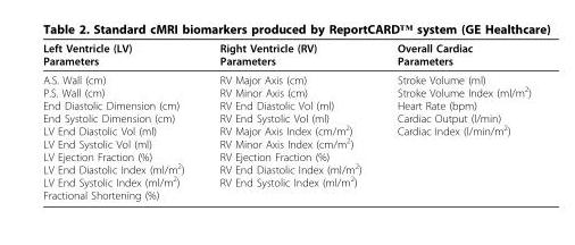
<table><thead><tr><td>Left Ventricle (LV) Parameters</td><td>Right Ventricle (RV) Parameters</td><td>Overall Cardiac Parameters</td></tr></thead><tbody><tr><td>A.S. Wall (cm) P.S. Wall (cm) End Diastolic Dimension (cm) End Systolic Dimension (cm) LV End Diastolic Vol (ml) LV End Systolic Vol (ml) LV Ejection Fraction (%) LV End Diastolic Index (ml/m<sup>2</sup>) LV End Systolic Index (ml/m<sup>2</sup>) Fractional Shortening (%)</td><td>RV Major Axis (cm) RV Minor Axis (cm) RV End Diastolic Vol (ml) RV End Systolic Vol (ml) RV Major Axis Index (cm/m<sup>2</sup>) RV Minor Axis Index (cm/m<sup>2</sup>) RV Ejection Fraction (%) RV End Diastolic Index (ml/m<sup>2</sup>) RV End Systolic Index (ml/m<sup>2</sup>)</td><td>Stroke Volume (ml) Stroke Volume Index (ml/m<sup>2</sup>) Heart Rate (bpm) Cardiac Output (l/min) Cardiac Index (l/min/m<sup>2</sup>)</td></tr></tbody></table>